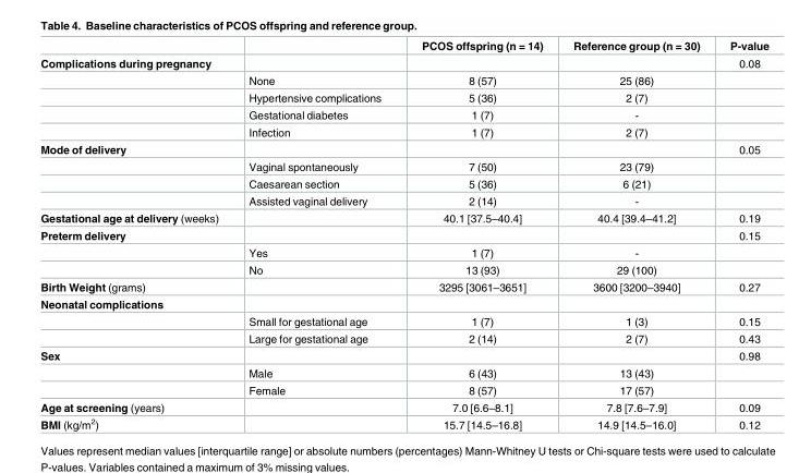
<table><thead><tr><td></td><td></td><td>PCOS offspring (n = 14)</td><td>Reference group (n = 30)</td><td>P-value</td></tr></thead><tbody><tr><td rowspan="5">Complications during pregnancy</td><td></td><td></td><td></td><td>0.08</td></tr><tr><td>None</td><td>8 (57)</td><td>25 (86)</td><td></td></tr><tr><td>Hypertensive complications</td><td>5 (36)</td><td>2 (7)</td><td></td></tr><tr><td>Gestational diabetes</td><td>1 (7)</td><td>-</td><td></td></tr><tr><td>Infection</td><td>1 (7)</td><td>2 (7)</td><td></td></tr><tr><td rowspan="4">Mode of delivery</td><td></td><td></td><td></td><td>0.05</td></tr><tr><td>Vaginal spontaneously</td><td>7 (50)</td><td>23 (79)</td><td></td></tr><tr><td>Caesarean section</td><td>5 (36)</td><td>6 (21)</td><td></td></tr><tr><td>Assisted vaginal delivery</td><td>2 (14)</td><td>-</td><td></td></tr><tr><td>Gestational age at delivery (weeks)</td><td></td><td>40.1 [37.5–40.4]</td><td>40.4 [39.4–41.2]</td><td>0.19</td></tr><tr><td rowspan="3">Preterm delivery</td><td></td><td></td><td></td><td>0.15</td></tr><tr><td>Yes</td><td>1 (7)</td><td>-</td><td></td></tr><tr><td>No</td><td>13 (93)</td><td>29 (100)</td><td></td></tr><tr><td>Birth Weight (grams)</td><td></td><td>3295 [3061–3651]</td><td>3600 [3200–3940]</td><td>0.27</td></tr><tr><td colspan="5">Neonatal complications</td></tr><tr><td></td><td>Small for gestational age</td><td>1 (7)</td><td>1 (3)</td><td>0.15</td></tr><tr><td></td><td>Large for gestational age</td><td>2 (14)</td><td>2 (7)</td><td>0.43</td></tr><tr><td rowspan="3">Sex</td><td></td><td></td><td></td><td>0.98</td></tr><tr><td>Male</td><td>6 (43)</td><td>13 (43)</td><td></td></tr><tr><td>Female</td><td>8 (57)</td><td>17 (57)</td><td></td></tr><tr><td>Age at screening (years)</td><td></td><td>7.0 [6.6–8.1]</td><td>7.8 [7.6–7.9]</td><td>0.09</td></tr><tr><td>BMI (kg/m<sup>2</sup>)</td><td></td><td>15.7 [14.5–16.8]</td><td>14.9 [14.5–16.0]</td><td>0.12</td></tr></tbody></table>